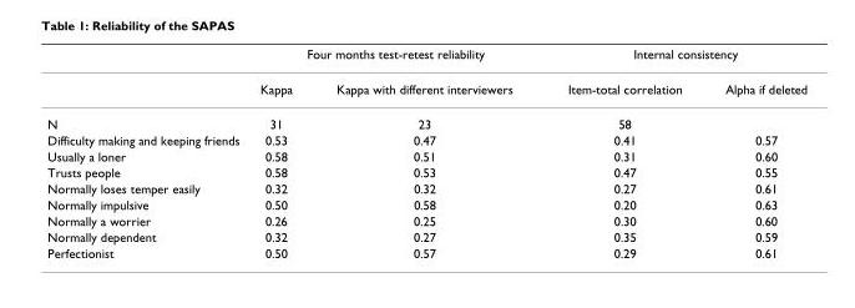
<table><thead><tr><td rowspan="2"></td><td colspan="2">Four months test-retest reliability</td><td colspan="2">Internal consistency</td></tr><tr><td>Kappa</td><td>Kappa with different interviewers</td><td>Item-total correlation</td><td>Alpha if deleted</td></tr></thead><tbody><tr><td>N</td><td>31</td><td>23</td><td>58</td><td></td></tr><tr><td>Difficulty making and keeping friends</td><td>0.53</td><td>0.47</td><td>0.41</td><td>0.57</td></tr><tr><td>Usually a loner</td><td>0.58</td><td>0.51</td><td>0.31</td><td>0.60</td></tr><tr><td>Trusts people</td><td>0.58</td><td>0.53</td><td>0.47</td><td>0.55</td></tr><tr><td>Normally loses temper easily</td><td>0.32</td><td>0.32</td><td>0.27</td><td>0.61</td></tr><tr><td>Normally impulsive</td><td>0.50</td><td>0.58</td><td>0.20</td><td>0.63</td></tr><tr><td>Normally a worrier</td><td>0.26</td><td>0.25</td><td>0.30</td><td>0.60</td></tr><tr><td>Normally dependent</td><td>0.32</td><td>0.27</td><td>0.35</td><td>0.59</td></tr><tr><td>Perfectionist</td><td>0.50</td><td>0.57</td><td>0.29</td><td>0.61</td></tr></tbody></table>